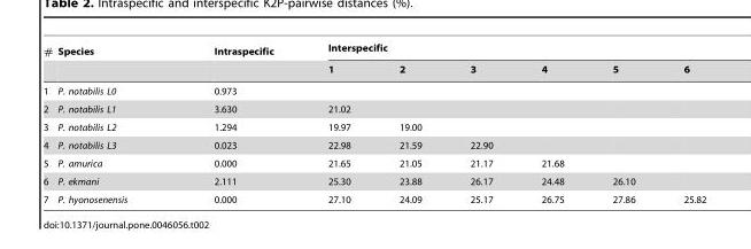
<table><thead><tr><td rowspan="2">#</td><td rowspan="2">Species</td><td rowspan="2">Intraspecific</td><td colspan="6">Interspecific</td></tr><tr><td>1</td><td>2</td><td>3</td><td>4</td><td>5</td><td>6</td></tr></thead><tbody><tr><td>1</td><td>P. notabilis L0</td><td>0.973</td><td></td><td></td><td></td><td></td><td></td><td></td></tr><tr><td>2</td><td>P. notabilis L1</td><td>3.630</td><td>21.02</td><td></td><td></td><td></td><td></td><td></td></tr><tr><td>3</td><td>P. notabilis L2</td><td>1.294</td><td>19.97</td><td>19.00</td><td></td><td></td><td></td><td></td></tr><tr><td>4</td><td>P. notabilis L3</td><td>0.023</td><td>22.98</td><td>21.59</td><td>22.90</td><td></td><td></td><td></td></tr><tr><td>5</td><td>P. amurica</td><td>0.000</td><td>21.65</td><td>21.05</td><td>21.17</td><td>21.68</td><td></td><td></td></tr><tr><td>6</td><td>P. ekmani</td><td>2.111</td><td>25.30</td><td>23.88</td><td>26.17</td><td>24.48</td><td>26.10</td><td></td></tr><tr><td>7</td><td>P. hyonosenensis</td><td>0.000</td><td>27.10</td><td>24.09</td><td>25.17</td><td>26.75</td><td>27.86</td><td>25.82</td></tr></tbody></table>